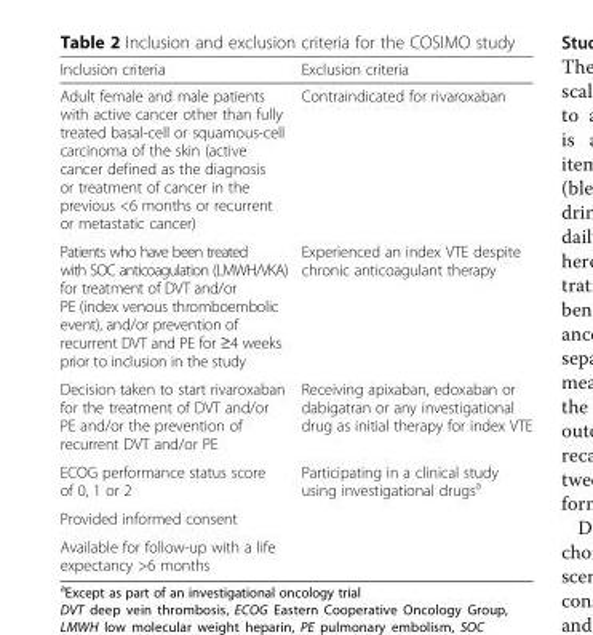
<table><thead><tr><td>Inclusion criteria</td><td>Exclusion criteria</td></tr></thead><tbody><tr><td>Adult female and male patients with active cancer other than fully treated basal-cell or squamous-cell carcinoma of the skin (active cancer defined as the diagnosis or treatment of cancer in the previous &lt;6 months or recurrent or metastatic cancer)</td><td>Contraindicated for rivaroxaban</td></tr><tr><td>Patients who have been treated with SOC anticoagulation (LMWH/VKA) for treatment of DVT and/or PE (index venous thromboembolic event), and/or prevention of recurrent DVT and PE for ≥4 weeks prior to inclusion in the study</td><td>Experienced an index VTE despite chronic anticoagulant therapy</td></tr><tr><td>Decision taken to start rivaroxaban for the treatment of DVT and/or PE and/or the prevention of recurrent DVT and/or PE</td><td>Receiving apixaban, edoxaban or dabigatran or any investigational drug as initial therapy for index VTE</td></tr><tr><td>ECOG performance status score of 0, 1 or 2</td><td>Participating in a clinical study using investigational drugs<sup>a</sup></td></tr><tr><td colspan="2">Provided informed consent</td></tr><tr><td>Available for follow-up with a life expectancy &gt;6 months</td><td></td></tr></tbody></table>